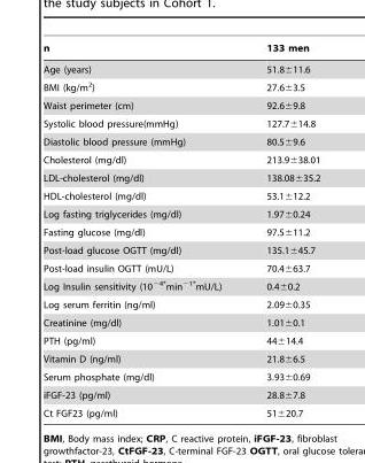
<table><thead><tr><td>n</td><td>133 men</td></tr></thead><tbody><tr><td>Age (years)</td><td>51.8±11.6</td></tr><tr><td>BMI (kg/m<sup>2</sup>)</td><td>27.6±3.5</td></tr><tr><td>Waist perimeter (cm)</td><td>92.6±9.8</td></tr><tr><td>Systolic blood pressure(mmHg)</td><td>127.7±14.8</td></tr><tr><td>Diastolic blood pressure (mmHg)</td><td>80.5±9.6</td></tr><tr><td>Cholesterol (mg/dl)</td><td>213.9±38.01</td></tr><tr><td>LDL-cholesterol (mg/dl)</td><td>138.08±35.2</td></tr><tr><td>HDL-cholesterol (mg/dl)</td><td>53.1±12.2</td></tr><tr><td>Log fasting triglycerides (mg/dl)</td><td>1.97±0.24</td></tr><tr><td>Fasting glucose (mg/dl)</td><td>97.5±11.2</td></tr><tr><td>Post-load glucose OGTT (mg/dl)</td><td>135.1±45.7</td></tr><tr><td>Post-load insulin OGTT (mU/L)</td><td>70.4±63.7</td></tr><tr><td>Log Insulin sensitivity (10<sup>−4*</sup>min<sup>−1*</sup>mU/L)</td><td>0.4±0.2</td></tr><tr><td>Log serum ferritin (ng/ml)</td><td>2.09±0.35</td></tr><tr><td>Creatinine (mg/dl)</td><td>1.01±0.1</td></tr><tr><td>PTH (pg/ml)</td><td>44±14.4</td></tr><tr><td>Vitamin D (ng/ml)</td><td>21.8±6.5</td></tr><tr><td>Serum phosphate (mg/dl)</td><td>3.93±0.69</td></tr><tr><td>iFGF-23 (pg/ml)</td><td>28.8±7.8</td></tr><tr><td>Ct FGF23 (pg/ml)</td><td>51±20.7</td></tr></tbody></table>